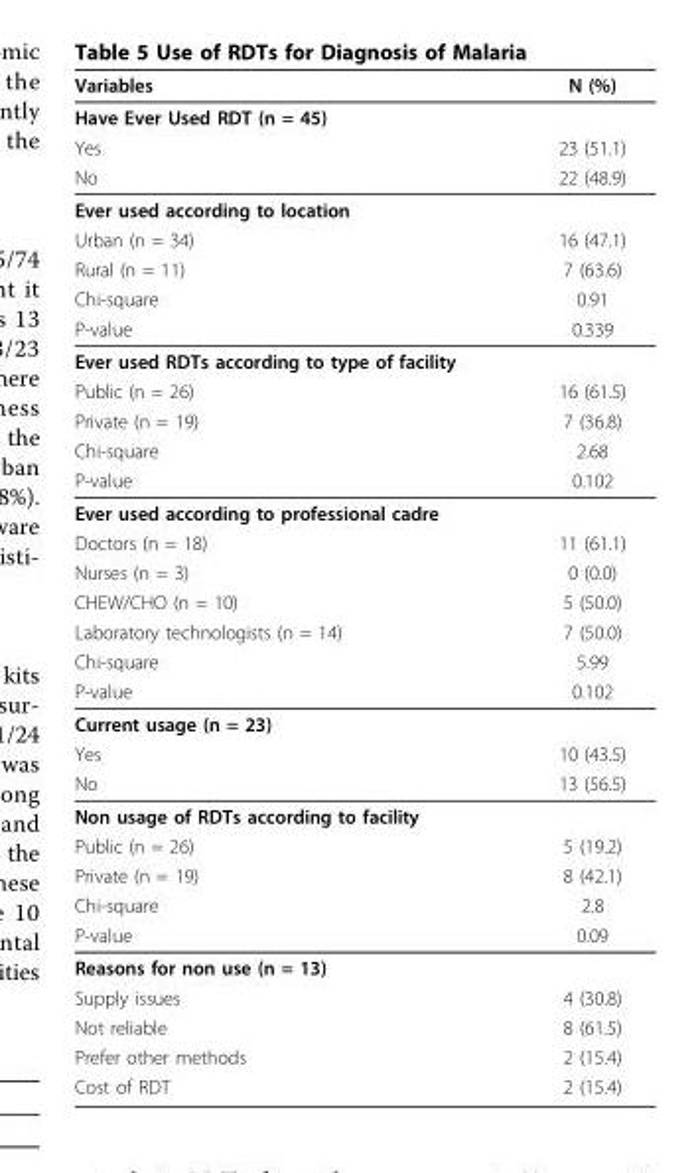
<table><thead><tr><td>Variables</td><td>N (%)</td></tr></thead><tbody><tr><td colspan="2">Have Ever Used RDT (n = 45)</td></tr><tr><td>Yes</td><td>23 (51.1)</td></tr><tr><td>No</td><td>22 (48.9)</td></tr><tr><td colspan="2">Ever used according to location</td></tr><tr><td>Urban (n = 34)</td><td>16 (47.1)</td></tr><tr><td>Rural (n = 11)</td><td>7 (63.6)</td></tr><tr><td>Chi-square</td><td>0.91</td></tr><tr><td>P-value</td><td>0.339</td></tr><tr><td colspan="2">Ever used RDTs according to type of facility</td></tr><tr><td>Public (n = 26)</td><td>16 (61.5)</td></tr><tr><td>Private (n = 19)</td><td>7 (36.8)</td></tr><tr><td>Chi-square</td><td>2.68</td></tr><tr><td>P-value</td><td>0.102</td></tr><tr><td colspan="2">Ever used according to professional cadre</td></tr><tr><td>Doctors (n = 18)</td><td>11 (61.1)</td></tr><tr><td>Nurses (n = 3)</td><td>0 (0.0)</td></tr><tr><td>CHEW/CHO (n = 10)</td><td>5 (50.0)</td></tr><tr><td>Laboratory technologists (n = 14)</td><td>7 (50.0)</td></tr><tr><td>Chi-square</td><td>5.99</td></tr><tr><td>P-value</td><td>0.102</td></tr><tr><td colspan="2">Current usage (n = 23)</td></tr><tr><td>Yes</td><td>10 (43.5)</td></tr><tr><td>No</td><td>13 (56.5)</td></tr><tr><td colspan="2">Non usage of RDTs according to facility</td></tr><tr><td>Public (n = 26)</td><td>5 (19.2)</td></tr><tr><td>Private (n = 19)</td><td>8 (42.1)</td></tr><tr><td>Chi-square</td><td>2.8</td></tr><tr><td>P-value</td><td>0.09</td></tr><tr><td colspan="2">Reasons for non use (n = 13)</td></tr><tr><td>Supply issues</td><td>4 (30.8)</td></tr><tr><td>Not reliable</td><td>8 (61.5)</td></tr><tr><td>Prefer other methods</td><td>2 (15.4)</td></tr><tr><td>Cost of RDT</td><td>2 (15.4)</td></tr></tbody></table>